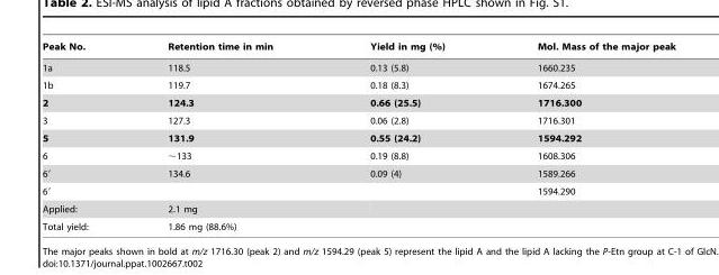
<table><thead><tr><td>Peak No.</td><td>Retention time in min</td><td>Yield in mg (%)</td><td>Mol. Mass of the major peak</td></tr></thead><tbody><tr><td>1a</td><td>118.5</td><td>0.13 (5.8)</td><td>1660.235</td></tr><tr><td>1b</td><td>119.7</td><td>0.18 (8.3)</td><td>1674.265</td></tr><tr><td>2</td><td>124.3</td><td>0.66 (25.5)</td><td>1716.300</td></tr><tr><td>3</td><td>127.3</td><td>0.06 (2.8)</td><td>1716.301</td></tr><tr><td>5</td><td>131.9</td><td>0.55 (24.2)</td><td>1594.292</td></tr><tr><td>6</td><td>∼133</td><td>0.19 (8.8)</td><td>1608.306</td></tr><tr><td>6′</td><td>134.6</td><td>0.09 (4)</td><td>1589.266</td></tr><tr><td>6′</td><td></td><td></td><td>1594.290</td></tr><tr><td>Applied:</td><td>2.1 mg</td><td></td><td></td></tr><tr><td>Total yield:</td><td>1.86 mg (88.6%)</td><td></td><td></td></tr></tbody></table>